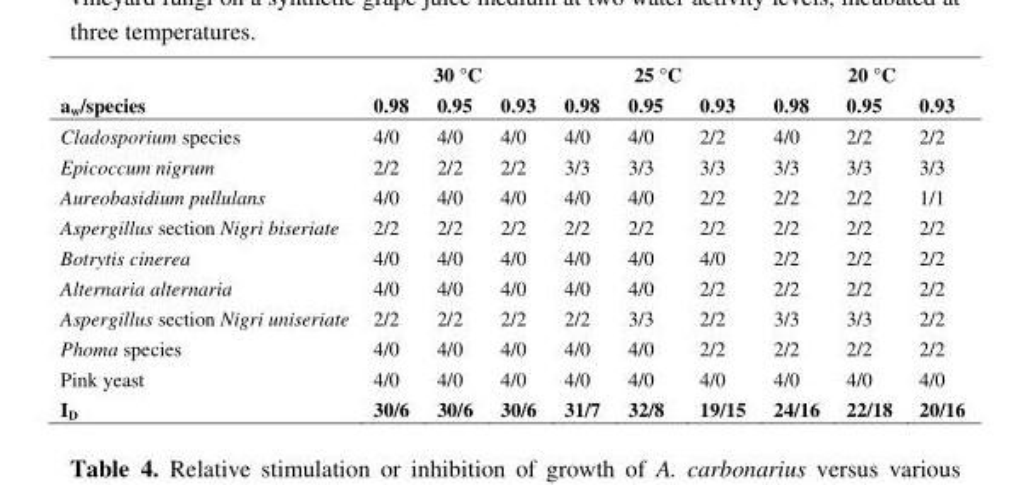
<table><thead><tr><td rowspan="2">a<sub>w</sub>/species</td><td colspan="3">30 °C</td><td colspan="3">25 °C</td><td colspan="3">20 °C</td></tr><tr><td>0.98</td><td>0.95</td><td>0.93</td><td>0.98</td><td>0.95</td><td>0.93</td><td>0.98</td><td>0.95</td><td>0.93</td></tr></thead><tbody><tr><td>Cladosporium species</td><td>4/0</td><td>4/0</td><td>4/0</td><td>4/0</td><td>4/0</td><td>2/2</td><td>4/0</td><td>2/2</td><td>2/2</td></tr><tr><td>Epicoccum nigrum</td><td>2/2</td><td>2/2</td><td>2/2</td><td>3/3</td><td>3/3</td><td>3/3</td><td>3/3</td><td>3/3</td><td>3/3</td></tr><tr><td>Aureobasidium pullulans</td><td>4/0</td><td>4/0</td><td>4/0</td><td>4/0</td><td>4/0</td><td>2/2</td><td>2/2</td><td>2/2</td><td>1/1</td></tr><tr><td>Aspergillus section Nigri biseriate</td><td>2/2</td><td>2/2</td><td>2/2</td><td>2/2</td><td>2/2</td><td>2/2</td><td>2/2</td><td>2/2</td><td>2/2</td></tr><tr><td>Botrytis cinerea</td><td>4/0</td><td>4/0</td><td>4/0</td><td>4/0</td><td>4/0</td><td>4/0</td><td>2/2</td><td>2/2</td><td>2/2</td></tr><tr><td>Alternaria alternaria</td><td>4/0</td><td>4/0</td><td>4/0</td><td>4/0</td><td>4/0</td><td>2/2</td><td>2/2</td><td>2/2</td><td>2/2</td></tr><tr><td>Aspergillus section Nigri uniseriate</td><td>2/2</td><td>2/2</td><td>2/2</td><td>2/2</td><td>3/3</td><td>2/2</td><td>3/3</td><td>3/3</td><td>2/2</td></tr><tr><td>Phoma species</td><td>4/0</td><td>4/0</td><td>4/0</td><td>4/0</td><td>4/0</td><td>2/2</td><td>2/2</td><td>2/2</td><td>2/2</td></tr><tr><td>Pink yeast</td><td>4/0</td><td>4/0</td><td>4/0</td><td>4/0</td><td>4/0</td><td>4/0</td><td>4/0</td><td>4/0</td><td>4/0</td></tr><tr><td>I<sub>D</sub></td><td>30/6</td><td>30/6</td><td>30/6</td><td>31/7</td><td>32/8</td><td>19/15</td><td>24/16</td><td>22/18</td><td>20/16</td></tr></tbody></table>